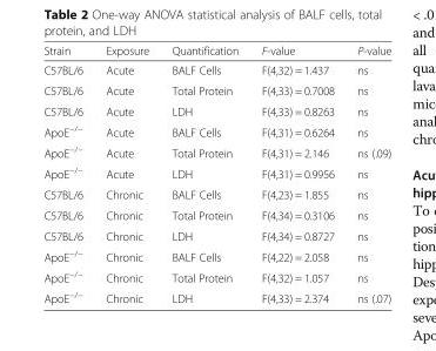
<table><thead><tr><td>Strain</td><td>Exposure</td><td>Quantification</td><td>F-value</td><td>P-value</td></tr></thead><tbody><tr><td>C57BL/6</td><td>Acute</td><td>BALF Cells</td><td>F(4,32) = 1.437</td><td>ns</td></tr><tr><td>C57BL/6</td><td>Acute</td><td>Total Protein</td><td>F(4,33) = 0.7008</td><td>ns</td></tr><tr><td>C57BL/6</td><td>Acute</td><td>LDH</td><td>F(4,33) = 0.8263</td><td>ns</td></tr><tr><td>ApoE<sup>−/−</sup></td><td>Acute</td><td>BALF Cells</td><td>F(4,31) = 0.6264</td><td>ns</td></tr><tr><td>ApoE<sup>−/−</sup></td><td>Acute</td><td>Total Protein</td><td>F(4,31) = 2.146</td><td>ns (.09)</td></tr><tr><td>ApoE<sup>−/−</sup></td><td>Acute</td><td>LDH</td><td>F(4,31) = 0.9956</td><td>ns</td></tr><tr><td>C57BL/6</td><td>Chronic</td><td>BALF Cells</td><td>F(4,23) = 1.855</td><td>ns</td></tr><tr><td>C57BL/6</td><td>Chronic</td><td>Total Protein</td><td>F(4,34) = 0.3106</td><td>ns</td></tr><tr><td>C57BL/6</td><td>Chronic</td><td>LDH</td><td>F(4,34) = 0.8727</td><td>ns</td></tr><tr><td>ApoE<sup>−/−</sup></td><td>Chronic</td><td>BALF Cells</td><td>F(4,22) = 2.058</td><td>ns</td></tr><tr><td>ApoE<sup>−/−</sup></td><td>Chronic</td><td>Total Protein</td><td>F(4,32) = 1.057</td><td>ns</td></tr><tr><td>ApoE<sup>−/−</sup></td><td>Chronic</td><td>LDH</td><td>F(4,33) = 2.374</td><td>ns (.07)</td></tr></tbody></table>